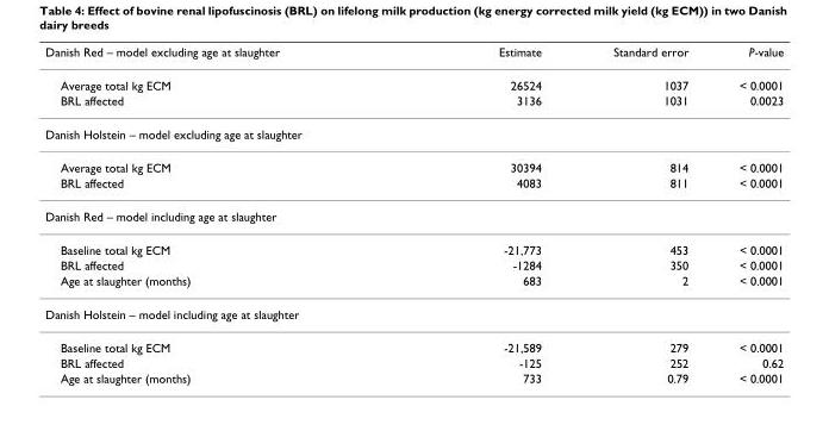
<table><thead><tr><td>Danish Red – model excluding age at slaughter</td><td>Estimate</td><td>Standard error</td><td>P-value</td></tr></thead><tbody><tr><td>Average total kg ECM</td><td>26524</td><td>1037</td><td>&lt; 0.0001</td></tr><tr><td>BRL affected</td><td>3136</td><td>1031</td><td>0.0023</td></tr><tr><td colspan="4">Danish Holstein – model excluding age at slaughter</td></tr><tr><td>Average total kg ECM</td><td>30394</td><td>814</td><td>&lt; 0.0001</td></tr><tr><td>BRL affected</td><td>4083</td><td>811</td><td>&lt; 0.0001</td></tr><tr><td colspan="4">Danish Red – model including age at slaughter</td></tr><tr><td>Baseline total kg ECM</td><td>-21,773</td><td>453</td><td>&lt; 0.0001</td></tr><tr><td>BRL affected</td><td>-1284</td><td>350</td><td>&lt; 0.0001</td></tr><tr><td>Age at slaughter (months)</td><td>683</td><td>2</td><td>&lt; 0.0001</td></tr><tr><td colspan="4">Danish Holstein – model including age at slaughter</td></tr><tr><td>Baseline total kg ECM</td><td>-21,589</td><td>279</td><td>&lt; 0.0001</td></tr><tr><td>BRL affected</td><td>-125</td><td>252</td><td>0.62</td></tr><tr><td>Age at slaughter (months)</td><td>733</td><td>0.79</td><td>&lt; 0.0001</td></tr></tbody></table>